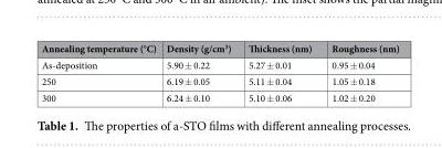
<table><thead><tr><td>Annealing temperature (°C)</td><td>Density (g/cm<sup>3</sup>)</td><td>Thickness (nm)</td><td>Roughness (nm)</td></tr></thead><tbody><tr><td>As-deposition</td><td>5.90 ± 0.22</td><td>5.27 ± 0.01</td><td>0.95 ± 0.04</td></tr><tr><td>250</td><td>6.19 ± 0.05</td><td>5.11 ± 0.04</td><td>1.05 ± 0.18</td></tr><tr><td>300</td><td>6.24 ± 0.10</td><td>5.10 ± 0.06</td><td>1.02 ± 0.20</td></tr></tbody></table>